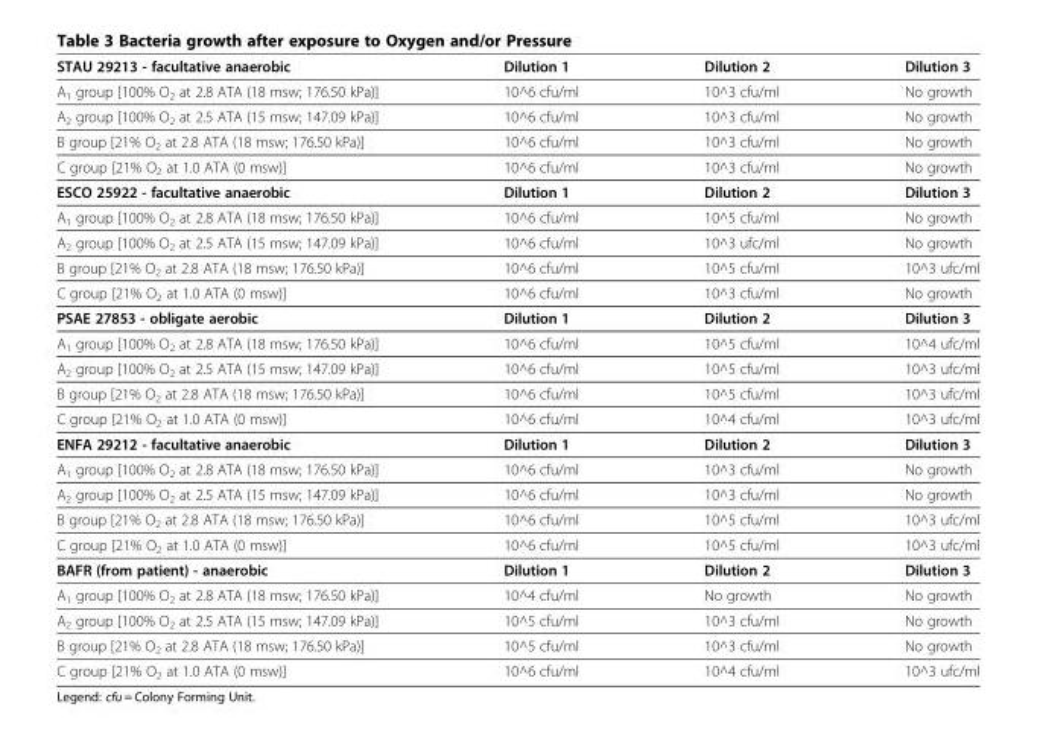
<table><tbody><tr><td>STAU 29213 - facultative anaerobic</td><td>Dilution 1</td><td>Dilution 2</td><td>Dilution 3</td></tr><tr><td>A<sub>1</sub> group [100% O<sub>2</sub> at 2.8 ATA (18 msw; 176.50 kPa)]</td><td>10^6 cfu/ml</td><td>10^3 cfu/ml</td><td>No growth</td></tr><tr><td>A<sub>2</sub> group [100% O<sub>2</sub> at 2.5 ATA (15 msw; 147.09 kPa)]</td><td>10^6 cfu/ml</td><td>10^3 cfu/ml</td><td>No growth</td></tr><tr><td>B group [21% O<sub>2</sub> at 2.8 ATA (18 msw; 176.50 kPa)]</td><td>10^6 cfu/ml</td><td>10^3 cfu/ml</td><td>No growth</td></tr><tr><td>C group [21% O<sub>2</sub> at 1.0 ATA (0 msw)]</td><td>10^6 cfu/ml</td><td>10^3 cfu/ml</td><td>No growth</td></tr><tr><td>ESCO 25922 - facultative anaerobic</td><td>Dilution 1</td><td>Dilution 2</td><td>Dilution 3</td></tr><tr><td>A<sub>1</sub> group [100% O<sub>2</sub> at 2.8 ATA (18 msw; 176.50 kPa)]</td><td>10^6 cfu/ml</td><td>10^5 cfu/ml</td><td>No growth</td></tr><tr><td>A<sub>2</sub> group [100% O<sub>2</sub> at 2.5 ATA (15 msw; 147.09 kPa)]</td><td>10^6 cfu/ml</td><td>10^3 ufc/ml</td><td>No growth</td></tr><tr><td>B group [21% O<sub>2</sub> at 2.8 ATA (18 msw; 176.50 kPa)]</td><td>10^6 cfu/ml</td><td>10^5 cfu/ml</td><td>10^3 ufc/ml</td></tr><tr><td>C group [21% O<sub>2</sub> at 1.0 ATA (0 msw)]</td><td>10^6 cfu/ml</td><td>10^3 cfu/ml</td><td>No growth</td></tr><tr><td>PSAE 27853 - obligate aerobic</td><td>Dilution 1</td><td>Dilution 2</td><td>Dilution 3</td></tr><tr><td>A<sub>1</sub> group [100% O<sub>2</sub> at 2.8 ATA (18 msw; 176.50 kPa)]</td><td>10^6 cfu/ml</td><td>10^5 cfu/ml</td><td>10^4 ufc/ml</td></tr><tr><td>A<sub>2</sub> group [100% O<sub>2</sub> at 2.5 ATA (15 msw; 147.09 kPa)]</td><td>10^6 cfu/ml</td><td>10^5 cfu/ml</td><td>10^3 ufc/ml</td></tr><tr><td>B group [21% O<sub>2</sub> at 2.8 ATA (18 msw; 176.50 kPa)]</td><td>10^6 cfu/ml</td><td>10^5 cfu/ml</td><td>10^3 ufc/ml</td></tr><tr><td>C group [21% O<sub>2</sub> at 1.0 ATA (0 msw)]</td><td>10^6 cfu/ml</td><td>10^4 cfu/ml</td><td>10^3 ufc/ml</td></tr><tr><td>ENFA 29212 - facultative anaerobic</td><td>Dilution 1</td><td>Dilution 2</td><td>Dilution 3</td></tr><tr><td>A<sub>1</sub> group [100% O<sub>2</sub> at 2.8 ATA (18 msw; 176.50 kPa)]</td><td>10^6 cfu/ml</td><td>10^3 cfu/ml</td><td>No growth</td></tr><tr><td>A<sub>2</sub> group [100% O<sub>2</sub> at 2.5 ATA (15 msw; 147.09 kPa)]</td><td>10^6 cfu/ml</td><td>10^3 cfu/ml</td><td>No growth</td></tr><tr><td>B group [21% O<sub>2</sub> at 2.8 ATA (18 msw; 176.50 kPa)]</td><td>10^6 cfu/ml</td><td>10^5 cfu/ml</td><td>10^3 ufc/ml</td></tr><tr><td>C group [21% O<sub>2</sub> at 1.0 ATA (0 msw)]</td><td>10^6 cfu/ml</td><td>10^5 cfu/ml</td><td>10^3 ufc/ml</td></tr><tr><td>BAFR (from patient) - anaerobic</td><td>Dilution 1</td><td>Dilution 2</td><td>Dilution 3</td></tr><tr><td>A<sub>1</sub> group [100% O<sub>2</sub> at 2.8 ATA (18 msw; 176.50 kPa)]</td><td>10^4 cfu/ml</td><td>No growth</td><td>No growth</td></tr><tr><td>A<sub>2</sub> group [100% O<sub>2</sub> at 2.5 ATA (15 msw; 147.09 kPa)]</td><td>10^5 cfu/ml</td><td>10^3 cfu/ml</td><td>No growth</td></tr><tr><td>B group [21% O<sub>2</sub> at 2.8 ATA (18 msw; 176.50 kPa)]</td><td>10^5 cfu/ml</td><td>10^3 cfu/ml</td><td>No growth</td></tr><tr><td>C group [21% O<sub>2</sub> at 1.0 ATA (0 msw)]</td><td>10^6 cfu/ml</td><td>10^4 cfu/ml</td><td>10^3 ufc/ml</td></tr></tbody></table>